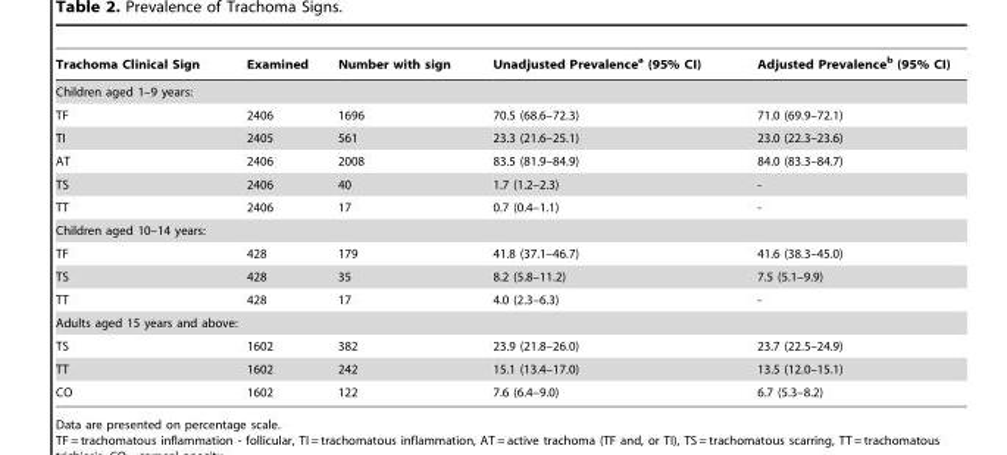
<table><thead><tr><td>Trachoma Clinical Sign</td><td>Examined</td><td>Number with sign</td><td>Unadjusted Prevalence<sup>a</sup> (95% CI)</td><td>Adjusted Prevalence<sup>b</sup> (95% CI)</td></tr></thead><tbody><tr><td colspan="5">Children aged 1–9 years:</td></tr><tr><td>TF</td><td>2406</td><td>1696</td><td>70.5 (68.6–72.3)</td><td>71.0 (69.9–72.1)</td></tr><tr><td>TI</td><td>2405</td><td>561</td><td>23.3 (21.6–25.1)</td><td>23.0 (22.3–23.6)</td></tr><tr><td>AT</td><td>2406</td><td>2008</td><td>83.5 (81.9–84.9)</td><td>84.0 (83.3–84.7)</td></tr><tr><td>TS</td><td>2406</td><td>40</td><td>1.7 (1.2–2.3)</td><td>-</td></tr><tr><td>TT</td><td>2406</td><td>17</td><td>0.7 (0.4–1.1)</td><td>-</td></tr><tr><td colspan="5">Children aged 10–14 years:</td></tr><tr><td>TF</td><td>428</td><td>179</td><td>41.8 (37.1–46.7)</td><td>41.6 (38.3–45.0)</td></tr><tr><td>TS</td><td>428</td><td>35</td><td>8.2 (5.8–11.2)</td><td>7.5 (5.1–9.9)</td></tr><tr><td>TT</td><td>428</td><td>17</td><td>4.0 (2.3–6.3)</td><td>-</td></tr><tr><td colspan="5">Adults aged 15 years and above:</td></tr><tr><td>TS</td><td>1602</td><td>382</td><td>23.9 (21.8–26.0)</td><td>23.7 (22.5–24.9)</td></tr><tr><td>TT</td><td>1602</td><td>242</td><td>15.1 (13.4–17.0)</td><td>13.5 (12.0–15.1)</td></tr><tr><td>CO</td><td>1602</td><td>122</td><td>7.6 (6.4–9.0)</td><td>6.7 (5.3–8.2)</td></tr></tbody></table>